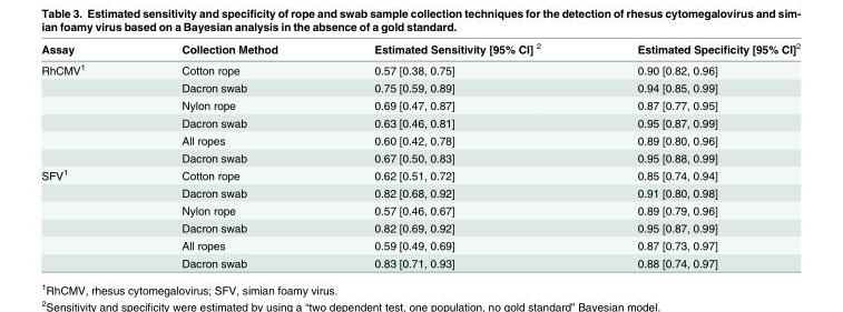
<table><thead><tr><td>Assay</td><td>Collection Method</td><td>Estimated Sensitivity [95% CI] <sup>2</sup></td><td>Estimated Specificity [95% CI]<sup>2</sup></td></tr></thead><tbody><tr><td rowspan="6">RhCMV<sup>1</sup></td><td>Cotton rope</td><td>0.57 [0.38, 0.75]</td><td>0.90 [0.82, 0.96]</td></tr><tr><td>Dacron swab</td><td>0.75 [0.59, 0.89]</td><td>0.94 [0.85, 0.99]</td></tr><tr><td>Nylon rope</td><td>0.69 [0.47, 0.87]</td><td>0.87 [0.77, 0.95]</td></tr><tr><td>Dacron swab</td><td>0.63 [0.46, 0.81]</td><td>0.95 [0.87, 0.99]</td></tr><tr><td>All ropes</td><td>0.60 [0.42, 0.78]</td><td>0.89 [0.80, 0.96]</td></tr><tr><td>Dacron swab</td><td>0.67 [0.50, 0.83]</td><td>0.95 [0.88, 0.99]</td></tr><tr><td rowspan="6">SFV<sup>1</sup></td><td>Cotton rope</td><td>0.62 [0.51, 0.72]</td><td>0.85 [0.74, 0.94]</td></tr><tr><td>Dacron swab</td><td>0.82 [0.68, 0.92]</td><td>0.91 [0.80, 0.98]</td></tr><tr><td>Nylon rope</td><td>0.57 [0.46, 0.67]</td><td>0.89 [0.79, 0.96]</td></tr><tr><td>Dacron swab</td><td>0.82 [0.69, 0.92]</td><td>0.95 [0.87, 0.99]</td></tr><tr><td>All ropes</td><td>0.59 [0.49, 0.69]</td><td>0.87 [0.73, 0.97]</td></tr><tr><td>Dacron swab</td><td>0.83 [0.71, 0.93]</td><td>0.88 [0.74, 0.97]</td></tr></tbody></table>